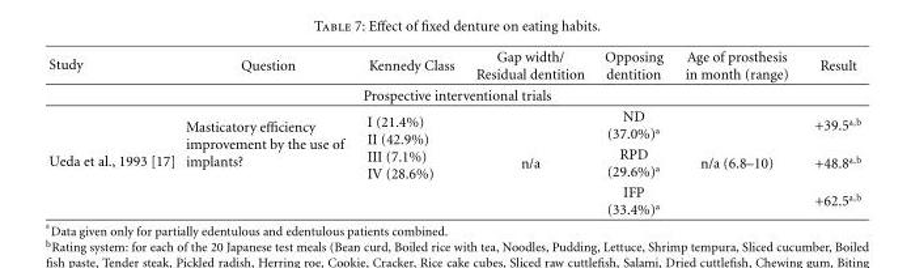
<table><thead><tr><td>Study</td><td>Question</td><td>Kennedy Class</td><td>Gap width/ Residual dentition</td><td>Opposing dentition</td><td>Age of prosthesis in month (range)</td><td>Result</td></tr></thead><tbody><tr><td colspan="7">Prospective interventional trials</td></tr><tr><td rowspan="3">Ueda et al., 1993 [17]</td><td rowspan="3">Masticatory efficiency improvement by the use of implants?</td><td rowspan="3">I (21.4%) II (42.9%) III (7.1%) IV (28.6%)</td><td></td><td>ND (37.0%)<sup>a</sup></td><td></td><td>+39.5<sup>a,b</sup></td></tr><tr><td>n/a</td><td>RPD (29.6%)<sup>a</sup></td><td>n/a (6.8–10)</td><td>+48.8<sup>a,b</sup></td></tr><tr><td></td><td>IFP (33.4%)<sup>a</sup></td><td></td><td>+62.5<sup>a,b</sup></td></tr></tbody></table>